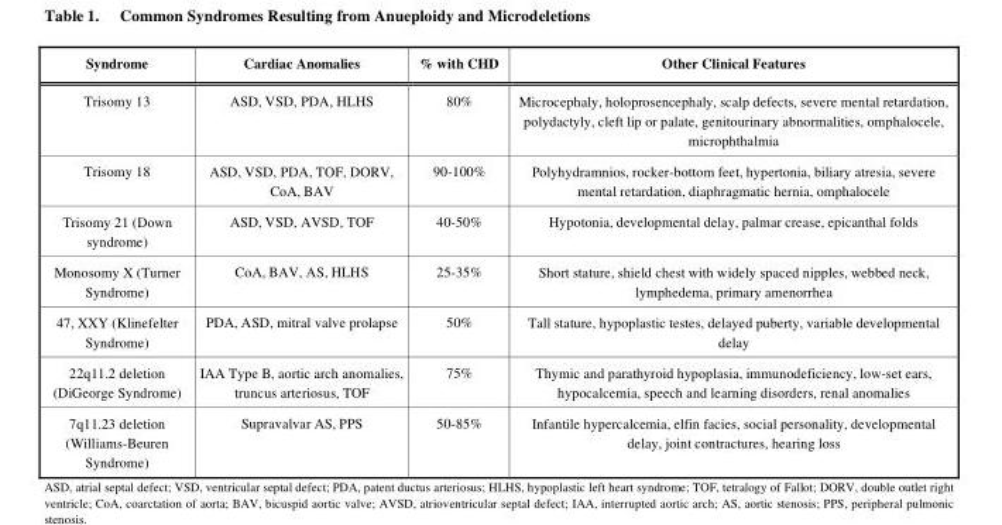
<table><thead><tr><td>Syndrome</td><td>Cardiac Anomalies</td><td>% with CHD</td><td>Other Clinical Features</td></tr></thead><tbody><tr><td>Trisomy 13</td><td>ASD, VSD, PDA, HLHS</td><td>80%</td><td>Microcephaly, holoprosencephaly, scalp defects, severe mental retardation, polydactyly, cleft lip or palate, genitourinary abnormalities, omphalocele, microphthalmia</td></tr><tr><td>Trisomy 18</td><td>ASD, VSD, PDA, TOF, DORV, CoA, BAV</td><td>90-100%</td><td>Polyhydramnios, rocker-bottom feet, hypertonia, biliary atresia, severe mental retardation, diaphragmatic hernia, omphalocele</td></tr><tr><td>Trisomy 21 (Down syndrome)</td><td>ASD, VSD, AVSD, TOF</td><td>40-50%</td><td>Hypotonia, developmental delay, palmar crease, epicanthal folds</td></tr><tr><td>Monosomy X (Turner Syndrome)</td><td>CoA, BAV, AS, HLHS</td><td>25-35%</td><td>Short stature, shield chest with widely spaced nipples, webbed neck, lymphedema, primary amenorrhea</td></tr><tr><td>47, XXY (Klinefelter Syndrome)</td><td>PDA, ASD, mitral valve prolapse</td><td>50%</td><td>Tall stature, hypoplastic testes, delayed puberty, variable developmental delay</td></tr><tr><td>22q11.2 deletion (DiGeorge Syndrome)</td><td>IAA Type B, aortic arch anomalies, truncus arteriosus, TOF</td><td>75%</td><td>Thymic and parathyroid hypoplasia, immunodeficiency, low-set ears, hypocalcemia, speech and learning disorders, renal anomalies</td></tr><tr><td>7q11.23 deletion (Williams-Beuren Syndrome)</td><td>Supravalvar AS, PPS</td><td>50-85%</td><td>Infantile hypercalcemia, elfin facies, social personality, developmental delay, joint contractures, hearing loss</td></tr></tbody></table>